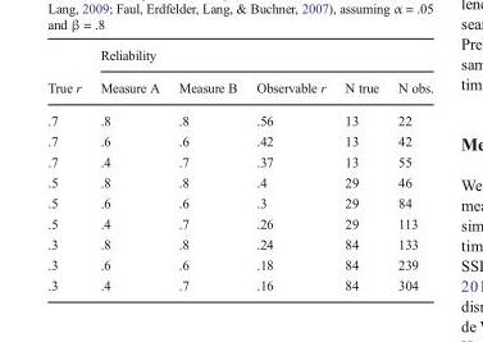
<table><thead><tr><td rowspan="2">True r</td><td colspan="5">Reliability</td></tr><tr><td>Measure A</td><td>Measure B</td><td>Observable r</td><td>N true</td><td>N obs.</td></tr></thead><tbody><tr><td>.7</td><td>.8</td><td>.8</td><td>.56</td><td>13</td><td>22</td></tr><tr><td>.7</td><td>.6</td><td>.6</td><td>.42</td><td>13</td><td>42</td></tr><tr><td>.7</td><td>.4</td><td>.7</td><td>.37</td><td>13</td><td>55</td></tr><tr><td>.5</td><td>.8</td><td>.8</td><td>.4</td><td>29</td><td>46</td></tr><tr><td>.5</td><td>.6</td><td>.6</td><td>.3</td><td>29</td><td>84</td></tr><tr><td>.5</td><td>.4</td><td>.7</td><td>.26</td><td>29</td><td>113</td></tr><tr><td>.3</td><td>.8</td><td>.8</td><td>.24</td><td>84</td><td>133</td></tr><tr><td>.3</td><td>.6</td><td>.6</td><td>.18</td><td>84</td><td>239</td></tr><tr><td>.3</td><td>.4</td><td>.7</td><td>.16</td><td>84</td><td>304</td></tr></tbody></table>